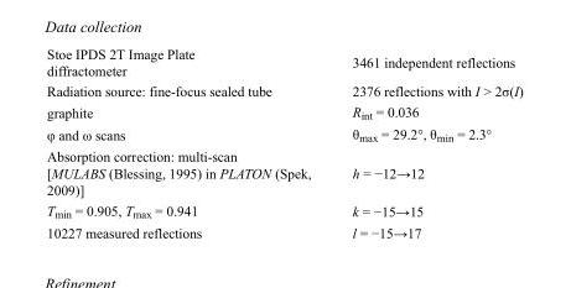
<table><tbody><tr><td>Stoe IPDS 2T Image Plate diffractometer</td><td>3461 independent reflections</td></tr><tr><td>Radiation source: fine-focus sealed tube</td><td>2376 reflections with I &gt; 2σ(I)</td></tr><tr><td>graphite</td><td>R<sub>int</sub> = 0.036</td></tr><tr><td>φ and ω scans</td><td>θ<sub>max</sub> = 29.2°, θ<sub>min</sub> = 2.3°</td></tr><tr><td>Absorption correction: multi-scan [MULABS (Blessing, 1995) in PLATON (Spek, 2009)]</td><td>h = −12→12</td></tr><tr><td>T<sub>min</sub> = 0.905, T<sub>max</sub> = 0.941</td><td>k = −15→15</td></tr><tr><td>10227 measured reflections</td><td>l = −15→17</td></tr></tbody></table>